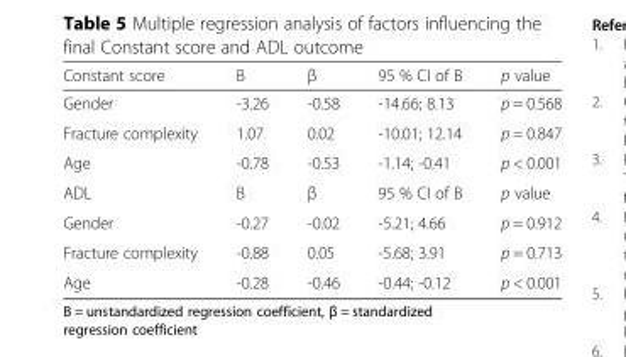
<table><thead><tr><td>Constant score</td><td>B</td><td>β</td><td>95 % CI of B</td><td>p value</td></tr></thead><tbody><tr><td>Gender</td><td>-3.26</td><td>-0.58</td><td>-14.66; 8.13</td><td>p = 0.568</td></tr><tr><td>Fracture complexity</td><td>1.07</td><td>0.02</td><td>-10.01; 12.14</td><td>p = 0.847</td></tr><tr><td>Age</td><td>-0.78</td><td>-0.53</td><td>-1.14; -0.41</td><td>p &lt; 0.001</td></tr><tr><td>ADL</td><td>B</td><td>β</td><td>95 % CI of B</td><td>p value</td></tr><tr><td>Gender</td><td>-0.27</td><td>-0.02</td><td>-5.21; 4.66</td><td>p = 0.912</td></tr><tr><td>Fracture complexity</td><td>-0.88</td><td>0.05</td><td>-5.68; 3.91</td><td>p = 0.713</td></tr><tr><td>Age</td><td>-0.28</td><td>-0.46</td><td>-0.44; -0.12</td><td>p &lt; 0.001</td></tr></tbody></table>